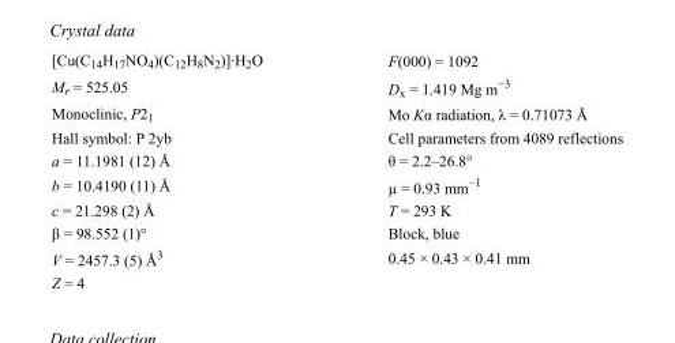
<table><tbody><tr><td>[Cu(C<sub>14</sub>H<sub>17</sub>NO<sub>4</sub>)(C<sub>12</sub>H<sub>8</sub>N<sub>2</sub>)]·H<sub>2</sub>O</td><td>F(000) = 1092</td></tr><tr><td>M<sub>r</sub> = 525.05</td><td>D<sub>x</sub> = 1.419 Mg m<sup>−3</sup></td></tr><tr><td>Monoclinic, P2<sub>1</sub></td><td>Mo Kα radiation, λ = 0.71073 Å</td></tr><tr><td>Hall symbol: P 2yb</td><td>Cell parameters from 4089 reflections</td></tr><tr><td>a = 11.1981 (12) Å</td><td>θ = 2.2–26.8°</td></tr><tr><td>b = 10.4190 (11) Å</td><td>µ = 0.93 mm<sup>−1</sup></td></tr><tr><td>c = 21.298 (2) Å</td><td>T = 293 K</td></tr><tr><td>β = 98.552 (1)°</td><td>Block, blue</td></tr><tr><td>V = 2457.3 (5) Å<sup>3</sup></td><td>0.45 × 0.43 × 0.41 mm</td></tr><tr><td>Z = 4</td><td></td></tr></tbody></table>